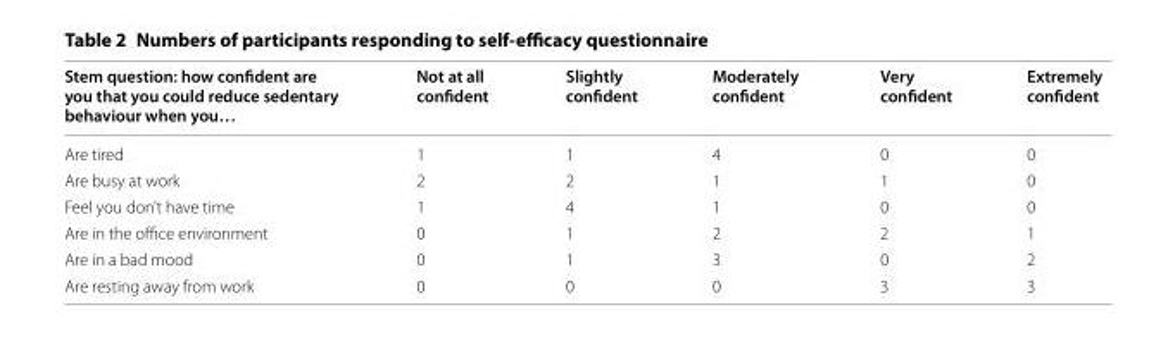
<table><thead><tr><td>Stem question: how confident are you that you could reduce sedentary behaviour when you…</td><td>Not at all confident</td><td>Slightly confident</td><td>Moderately confident</td><td>Very confident</td><td>Extremely confident</td></tr></thead><tbody><tr><td>Are tired</td><td>1</td><td>1</td><td>4</td><td>0</td><td>0</td></tr><tr><td>Are busy at work</td><td>2</td><td>2</td><td>1</td><td>1</td><td>0</td></tr><tr><td>Feel you don’t have time</td><td>1</td><td>4</td><td>1</td><td>0</td><td>0</td></tr><tr><td>Are in the office environment</td><td>0</td><td>1</td><td>2</td><td>2</td><td>1</td></tr><tr><td>Are in a bad mood</td><td>0</td><td>1</td><td>3</td><td>0</td><td>2</td></tr><tr><td>Are resting away from work</td><td>0</td><td>0</td><td>0</td><td>3</td><td>3</td></tr></tbody></table>